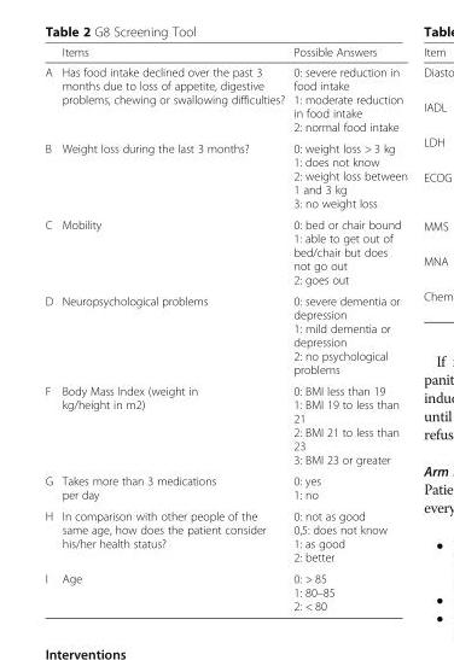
<table><thead><tr><td></td><td>Items</td><td>Possible Answers</td></tr></thead><tbody><tr><td>A</td><td>Has food intake declined over the past 3 months due to loss of appetite, digestive problems, chewing or swallowing difficulties?</td><td>0: severe reduction in food intake 1: moderate reduction in food intake 2: normal food intake</td></tr><tr><td>B</td><td>Weight loss during the last 3 months?</td><td>0: weight loss &gt; 3 kg 1: does not know 2: weight loss between 1 and 3 kg 3: no weight loss</td></tr><tr><td>C</td><td>Mobility</td><td>0: bed or chair bound 1: able to get out of bed/chair but does not go out 2: goes out</td></tr><tr><td>D</td><td>Neuropsychological problems</td><td>0: severe dementia or depression 1: mild dementia or depression 2: no psychological problems</td></tr><tr><td>F</td><td>Body Mass Index (weight in kg/height in m2)</td><td>0: BMI less than 19 1: BMI 19 to less than 21 2: BMI 21 to less than 23 3: BMI 23 or greater</td></tr><tr><td>G</td><td>Takes more than 3 medications per day</td><td>0: yes 1: no</td></tr><tr><td>H</td><td>In comparison with other people of the same age, how does the patient consider his/her health status?</td><td>0: not as good 0,5: does not know 1: as good 2: better</td></tr><tr><td>I</td><td>Age</td><td>0: &gt; 85 1: 80–85 2: &lt; 80</td></tr></tbody></table>